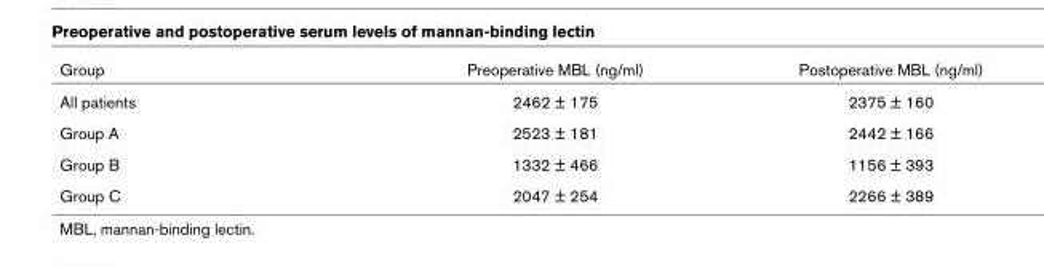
<table><thead><tr><td>Group</td><td>Preoperative MBL (ng/ml)</td><td>Postoperative MBL (ng/ml)</td></tr></thead><tbody><tr><td>All patients</td><td>2462 ± 175</td><td>2375 ± 160</td></tr><tr><td>Group A</td><td>2523 ± 181</td><td>2442 ± 166</td></tr><tr><td>Group B</td><td>1332 ± 466</td><td>1156 ± 393</td></tr><tr><td>Group C</td><td>2047 ± 254</td><td>2266 ± 389</td></tr></tbody></table>